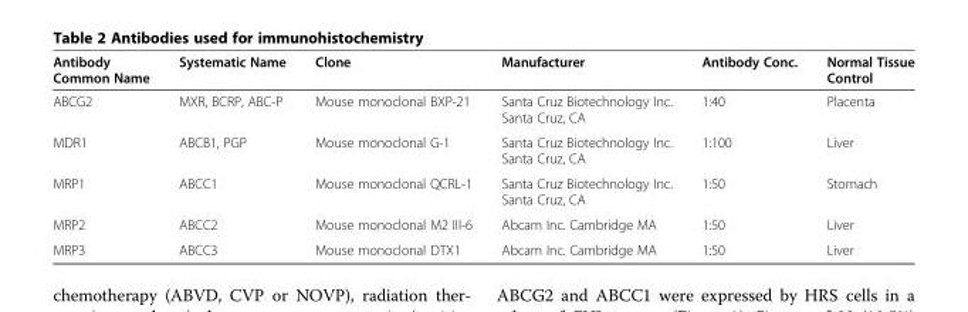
<table><thead><tr><td>Antibody Common Name</td><td>Systematic Name</td><td>Clone</td><td>Manufacturer</td><td>Antibody Conc.</td><td>Normal Tissue Control</td></tr></thead><tbody><tr><td>ABCG2</td><td>MXR, BCRP, ABC-P</td><td>Mouse monoclonal BXP-21</td><td>Santa Cruz Biotechnology Inc. Santa Cruz, CA</td><td>1:40</td><td>Placenta</td></tr><tr><td>MDR1</td><td>ABCB1, PGP</td><td>Mouse monoclonal G-1</td><td>Santa Cruz Biotechnology Inc. Santa Cruz, CA</td><td>1:100</td><td>Liver</td></tr><tr><td>MRP1</td><td>ABCC1</td><td>Mouse monoclonal QCRL-1</td><td>Santa Cruz Biotechnology Inc. Santa Cruz, CA</td><td>1:50</td><td>Stomach</td></tr><tr><td>MRP2</td><td>ABCC2</td><td>Mouse monoclonal M2 III-6</td><td>Abcam Inc. Cambridge MA</td><td>1:50</td><td>Liver</td></tr><tr><td>MRP3</td><td>ABCC3</td><td>Mouse monoclonal DTX1</td><td>Abcam Inc. Cambridge MA</td><td>1:50</td><td>Liver</td></tr></tbody></table>